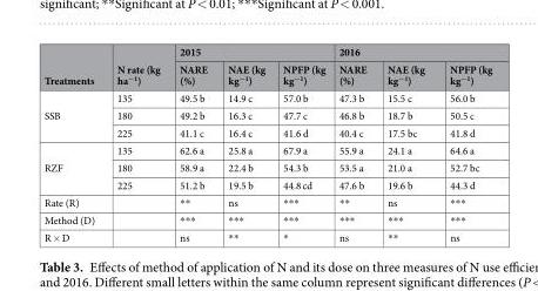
<table><thead><tr><td rowspan="2">Treatments</td><td rowspan="2">N rate (kg ha<sup>−1</sup>)</td><td colspan="3">2015</td><td colspan="3">2016</td></tr><tr><td>NARE (%)</td><td>NAE (kg kg<sup>−1</sup>)</td><td>NPFP (kg kg<sup>−1</sup>)</td><td>NARE (%)</td><td>NAE (kg kg<sup>−1</sup>)</td><td>NPFP (kg kg<sup>−1</sup>)</td></tr></thead><tbody><tr><td rowspan="3">SSB</td><td>135</td><td>49.5 b</td><td>14.9 c</td><td>57.0 b</td><td>47.3 b</td><td>15.5 c</td><td>56.0 b</td></tr><tr><td>180</td><td>49.2 b</td><td>16.3 c</td><td>47.7 c</td><td>46.8 b</td><td>18.7 b</td><td>50.5 c</td></tr><tr><td>225</td><td>41.1 c</td><td>16.4 c</td><td>41.6 d</td><td>40.4 c</td><td>17.5 bc</td><td>41.8 d</td></tr><tr><td rowspan="3">RZF</td><td>135</td><td>62.6 a</td><td>25.8 a</td><td>67.9 a</td><td>55.9 a</td><td>24.1 a</td><td>64.6 a</td></tr><tr><td>180</td><td>58.9 a</td><td>22.4 b</td><td>54.3 b</td><td>53.5 a</td><td>21.0 a</td><td>52.7 bc</td></tr><tr><td>225</td><td>51.2 b</td><td>19.5 b</td><td>44.8 cd</td><td>47.6 b</td><td>19.6 b</td><td>44.3 d</td></tr><tr><td>Rate (R)</td><td></td><td>**</td><td>ns</td><td>***</td><td>**</td><td>ns</td><td>***</td></tr><tr><td>Method (D)</td><td></td><td>***</td><td>***</td><td>***</td><td>***</td><td>***</td><td>***</td></tr><tr><td>R × D</td><td></td><td>ns</td><td>**</td><td>*</td><td>ns</td><td>**</td><td>ns</td></tr></tbody></table>